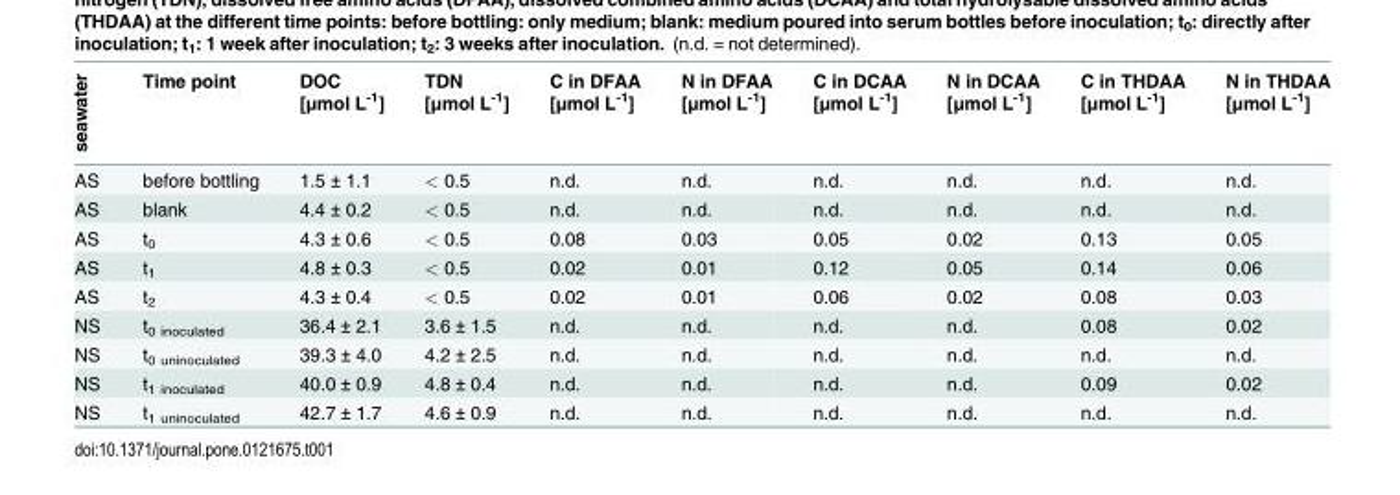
<table><thead><tr><td>seawater</td><td>Time point</td><td>DOC [μmol L<sup>-1</sup>]</td><td>TDN [μmol L<sup>-1</sup>]</td><td>C in DFAA [μmol L<sup>-1</sup>]</td><td>N in DFAA [μmol L<sup>-1</sup>]</td><td>C in DCAA [μmol L<sup>-1</sup>]</td><td>N in DCAA [μmol L<sup>-1</sup>]</td><td>C in THDAA [μmol L<sup>-1</sup>]</td><td>N in THDAA [μmol L<sup>-1</sup>]</td></tr></thead><tbody><tr><td>AS</td><td>before bottling</td><td>1.5 ± 1.1</td><td>&lt; 0.5</td><td>n.d.</td><td>n.d.</td><td>n.d.</td><td>n.d.</td><td>n.d.</td><td>n.d.</td></tr><tr><td>AS</td><td>blank</td><td>4.4 ± 0.2</td><td>&lt; 0.5</td><td>n.d.</td><td>n.d.</td><td>n.d.</td><td>n.d.</td><td>n.d.</td><td>n.d.</td></tr><tr><td>AS</td><td>t<sub>0</sub></td><td>4.3 ± 0.6</td><td>&lt; 0.5</td><td>0.08</td><td>0.03</td><td>0.05</td><td>0.02</td><td>0.13</td><td>0.05</td></tr><tr><td>AS</td><td>t<sub>1</sub></td><td>4.8 ± 0.3</td><td>&lt; 0.5</td><td>0.02</td><td>0.01</td><td>0.12</td><td>0.05</td><td>0.14</td><td>0.06</td></tr><tr><td>AS</td><td>t<sub>2</sub></td><td>4.3 ± 0.4</td><td>&lt; 0.5</td><td>0.02</td><td>0.01</td><td>0.06</td><td>0.02</td><td>0.08</td><td>0.03</td></tr><tr><td>NS</td><td>t<sub>0 inoculated</sub></td><td>36.4 ± 2.1</td><td>3.6 ± 1.5</td><td>n.d.</td><td>n.d.</td><td>n.d.</td><td>n.d.</td><td>0.08</td><td>0.02</td></tr><tr><td>NS</td><td>t<sub>0 uninoculated</sub></td><td>39.3 ± 4.0</td><td>4.2 ± 2.5</td><td>n.d.</td><td>n.d.</td><td>n.d.</td><td>n.d.</td><td>n.d.</td><td>n.d.</td></tr><tr><td>NS</td><td>t<sub>1 inoculated</sub></td><td>40.0 ± 0.9</td><td>4.8 ± 0.4</td><td>n.d.</td><td>n.d.</td><td>n.d.</td><td>n.d.</td><td>0.09</td><td>0.02</td></tr><tr><td>NS</td><td>t<sub>1 uninoculated</sub></td><td>42.7 ± 1.7</td><td>4.6 ± 0.9</td><td>n.d.</td><td>n.d.</td><td>n.d.</td><td>n.d.</td><td>n.d.</td><td>n.d.</td></tr></tbody></table>